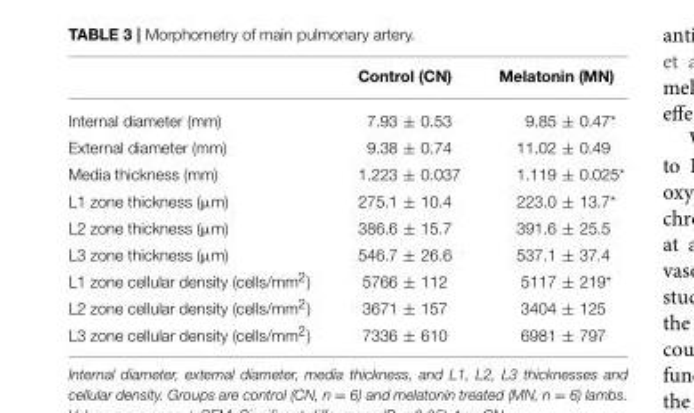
<table><thead><tr><td></td><td>Control (CN)</td><td>Melatonin (MN)</td></tr></thead><tbody><tr><td>Internal diameter (mm)</td><td>7.93 ± 0.53</td><td>9.85 ± 0.47*</td></tr><tr><td>External diameter (mm)</td><td>9.38 ± 0.74</td><td>11.02 ± 0.49</td></tr><tr><td>Media thickness (mm)</td><td>1.223 ± 0.037</td><td>1.119 ± 0.025*</td></tr><tr><td>L1 zone thickness (µm)</td><td>275.1 ± 10.4</td><td>223.0 ± 13.7*</td></tr><tr><td>L2 zone thickness (µm)</td><td>386.6 ± 15.7</td><td>391.6 ± 25.5</td></tr><tr><td>L3 zone thickness (µm)</td><td>546.7 ± 26.6</td><td>537.1 ± 37.4</td></tr><tr><td>L1 zone cellular density (cells/mm<sup>2</sup>)</td><td>5766 ± 112</td><td>5117 ± 219*</td></tr><tr><td>L2 zone cellular density (cells/mm<sup>2</sup>)</td><td>3671 ± 157</td><td>3404 ± 125</td></tr><tr><td>L3 zone cellular density (cells/mm<sup>2</sup>)</td><td>7336 ± 610</td><td>6981 ± 797</td></tr></tbody></table>